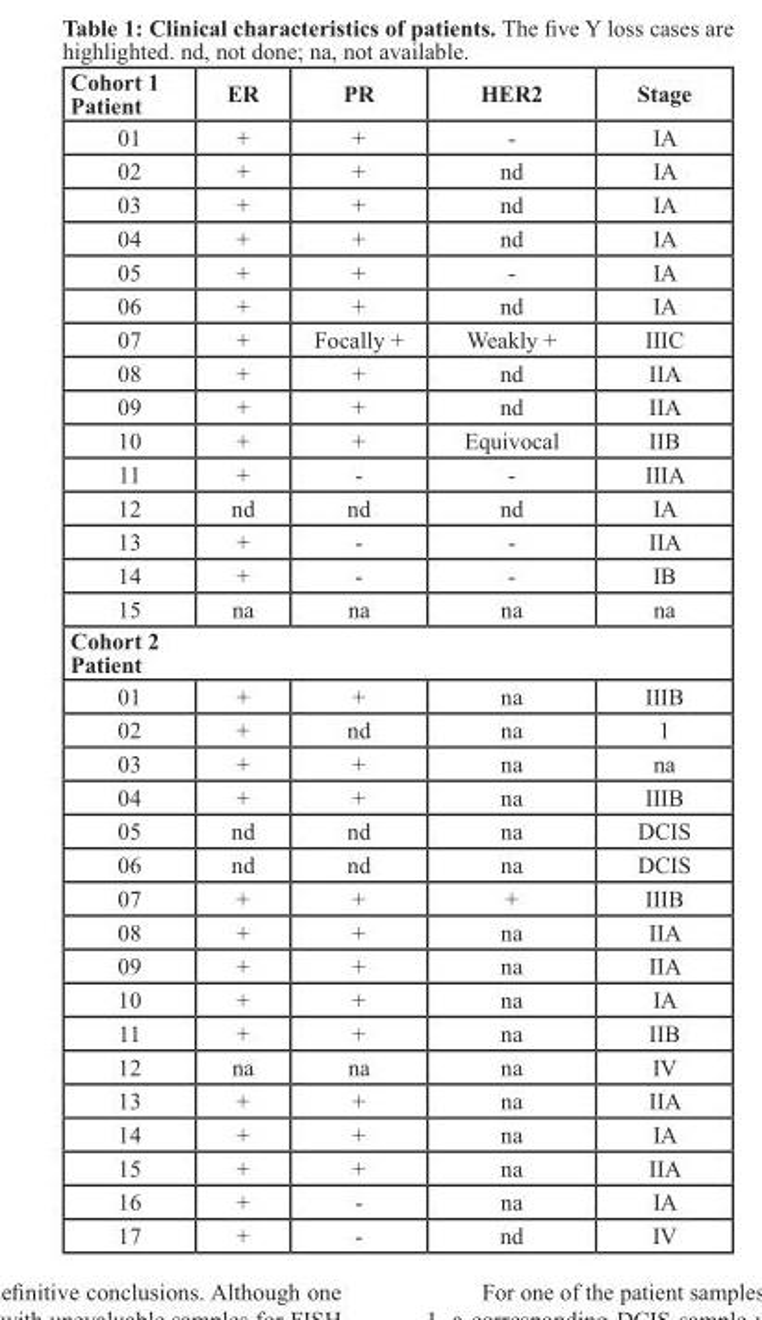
<table><thead><tr><td>Cohort 1 Patient</td><td>ER</td><td>PR</td><td>HER2</td><td>Stage</td></tr></thead><tbody><tr><td>01</td><td>+</td><td>+</td><td>-</td><td>IA</td></tr><tr><td>02</td><td>+</td><td>+</td><td>nd</td><td>IA</td></tr><tr><td>03</td><td>+</td><td>+</td><td>nd</td><td>IA</td></tr><tr><td>04</td><td>+</td><td>+</td><td>nd</td><td>IA</td></tr><tr><td>05</td><td>+</td><td>+</td><td>-</td><td>IA</td></tr><tr><td>06</td><td>+</td><td>+</td><td>nd</td><td>IA</td></tr><tr><td>07</td><td>+</td><td>Focally +</td><td>Weakly +</td><td>IIIC</td></tr><tr><td>08</td><td>+</td><td>+</td><td>nd</td><td>IIA</td></tr><tr><td>09</td><td>+</td><td>+</td><td>nd</td><td>IIA</td></tr><tr><td>10</td><td>+</td><td>+</td><td>Equivocal</td><td>IIB</td></tr><tr><td>11</td><td>+</td><td>-</td><td>-</td><td>IIIA</td></tr><tr><td>12</td><td>nd</td><td>nd</td><td>nd</td><td>IA</td></tr><tr><td>13</td><td>+</td><td>-</td><td>-</td><td>IIA</td></tr><tr><td>14</td><td>+</td><td>-</td><td>-</td><td>IB</td></tr><tr><td>15</td><td>na</td><td>na</td><td>na</td><td>na</td></tr><tr><td colspan="5">Cohort 2 Patient</td></tr><tr><td>01</td><td>+</td><td>+</td><td>na</td><td>IIIB</td></tr><tr><td>02</td><td>+</td><td>nd</td><td>na</td><td>1</td></tr><tr><td>03</td><td>+</td><td>+</td><td>na</td><td>na</td></tr><tr><td>04</td><td>+</td><td>+</td><td>na</td><td>IIIB</td></tr><tr><td>05</td><td>nd</td><td>nd</td><td>na</td><td>DCIS</td></tr><tr><td>06</td><td>nd</td><td>nd</td><td>na</td><td>DCIS</td></tr><tr><td>07</td><td>+</td><td>+</td><td>+</td><td>IIIB</td></tr><tr><td>08</td><td>+</td><td>+</td><td>na</td><td>IIA</td></tr><tr><td>09</td><td>+</td><td>+</td><td>na</td><td>IIA</td></tr><tr><td>10</td><td>+</td><td>+</td><td>na</td><td>IA</td></tr><tr><td>11</td><td>+</td><td>+</td><td>na</td><td>IIB</td></tr><tr><td>12</td><td>na</td><td>na</td><td>na</td><td>IV</td></tr><tr><td>13</td><td>+</td><td>+</td><td>na</td><td>IIA</td></tr><tr><td>14</td><td>+</td><td>+</td><td>na</td><td>IA</td></tr><tr><td>15</td><td>+</td><td>+</td><td>na</td><td>IIA</td></tr><tr><td>16</td><td>+</td><td>-</td><td>na</td><td>IA</td></tr><tr><td>17</td><td>+</td><td>-</td><td>nd</td><td>IV</td></tr></tbody></table>